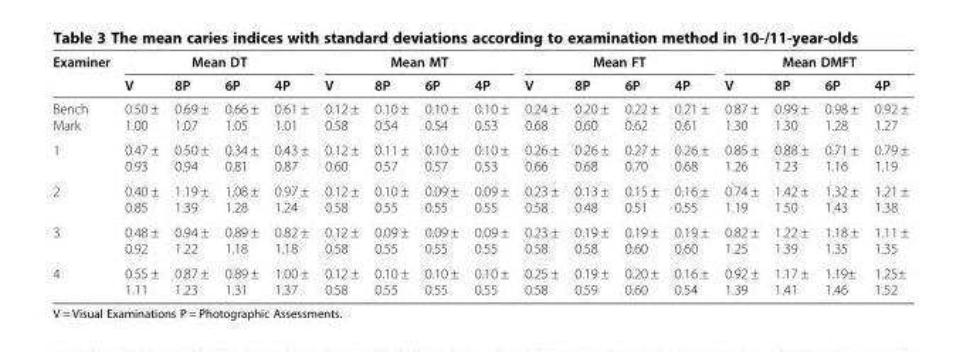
<table><thead><tr><td rowspan="2">Examiner</td><td colspan="4">Mean DT</td><td colspan="4">Mean MT</td><td colspan="4">Mean FT</td><td colspan="4">Mean DMFT</td></tr><tr><td>V</td><td>8P</td><td>6P</td><td>4P</td><td>V</td><td>8P</td><td>6P</td><td>4P</td><td>V</td><td>8P</td><td>6P</td><td>4P</td><td>V</td><td>8P</td><td>6P</td><td>4P</td></tr></thead><tbody><tr><td>Bench Mark</td><td>0.50 ± 1.00</td><td>0.69 ± 1.07</td><td>0.66 ± 1.05</td><td>0.61 ± 1.01</td><td>0.12 ± 0.58</td><td>0.10 ± 0.54</td><td>0.10 ± 0.54</td><td>0.10 ± 0.53</td><td>0.24 ± 0.68</td><td>0.20 ± 0.60</td><td>0.22 ± 0.62</td><td>0.21 ± 0.61</td><td>0.87 ± 1.30</td><td>0.99 ± 1.30</td><td>0.98 ± 1.28</td><td>0.92 ± 1.27</td></tr><tr><td>1</td><td>0.47 ± 0.93</td><td>0.50 ± 0.94</td><td>0.34 ± 0.81</td><td>0.43 ± 0.87</td><td>0.12 ± 0.60</td><td>0.11 ± 0.57</td><td>0.10 ± 0.57</td><td>0.10 ± 0.53</td><td>0.26 ± 0.66</td><td>0.26 ± 0.68</td><td>0.27 ± 0.70</td><td>0.26 ± 0.68</td><td>0.85 ± 1.26</td><td>0.88 ± 1.23</td><td>0.71 ± 1.16</td><td>0.79 ± 1.19</td></tr><tr><td>2</td><td>0.40 ± 0.85</td><td>1.19 ± 1.39</td><td>1.08 ± 1.28</td><td>0.97 ± 1.24</td><td>0.12 ± 0.58</td><td>0.10 ± 0.55</td><td>0.09 ± 0.55</td><td>0.09 ± 0.55</td><td>0.23 ± 0.58</td><td>0.13 ± 0.48</td><td>0.15 ± 0.51</td><td>0.16 ± 0.55</td><td>0.74 ± 1.19</td><td>1.42 ± 1.50</td><td>1.32 ± 1.43</td><td>1.21 ± 1.38</td></tr><tr><td>3</td><td>0.48 ± 0.92</td><td>0.94 ± 1.22</td><td>0.89 ± 1.18</td><td>0.82 ± 1.18</td><td>0.12 ± 0.58</td><td>0.09 ± 0.55</td><td>0.09 ± 0.55</td><td>0.09 ± 0.55</td><td>0.23 ± 0.58</td><td>0.19 ± 0.58</td><td>0.19 ± 0.60</td><td>0.19 ± 0.60</td><td>0.82 ± 1.25</td><td>1.22 ± 1.39</td><td>1.18 ± 1.35</td><td>1.11 ± 1.35</td></tr><tr><td>4</td><td>0.55 ± 1.11</td><td>0.87 ± 1.23</td><td>0.89 ± 1.31</td><td>1.00 ± 1.37</td><td>0.12 ± 0.58</td><td>0.10 ± 0.55</td><td>0.10 ± 0.55</td><td>0.10 ± 0.55</td><td>0.25 ± 0.58</td><td>0.19 ± 0.59</td><td>0.20 ± 0.60</td><td>0.16 ± 0.54</td><td>0.92 ± 1.39</td><td>1.17 ± 1.41</td><td>1.19± 1.46</td><td>1.25± 1.52</td></tr></tbody></table>